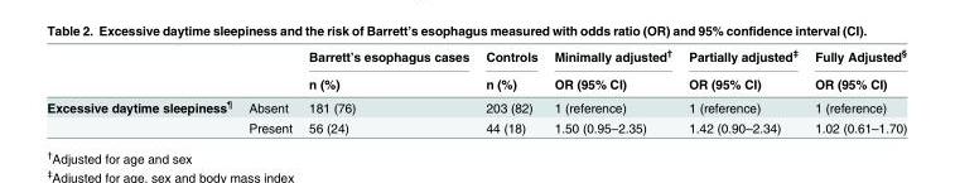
<table><thead><tr><td rowspan="2"></td><td rowspan="2"></td><td rowspan="2">Barrett’s esophagus cases n (%)</td><td rowspan="2">Controls n (%)</td><td rowspan="2">Minimally adjusted<sup>†</sup> OR (95% CI)</td><td rowspan="2">Partially adjusted<sup>‡</sup> OR (95% CI)</td><td rowspan="2">Fully Adjusted<sup>§</sup> OR (95% CI)</td></tr><tr></tr></thead><tbody><tr><td rowspan="2">Excessive daytime sleepiness<sup>¶</sup></td><td>Absent</td><td>181 (76)</td><td>203 (82)</td><td>1 (reference)</td><td>1 (reference)</td><td>1 (reference)</td></tr><tr><td>Present</td><td>56 (24)</td><td>44 (18)</td><td>1.50 (0.95–2.35)</td><td>1.42 (0.90–2.34)</td><td>1.02 (0.61–1.70)</td></tr></tbody></table>